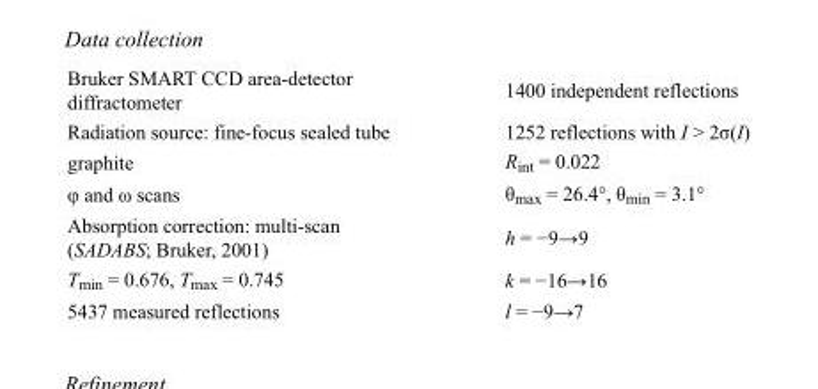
<table><tbody><tr><td>Bruker SMART CCD area-detector diffractometer</td><td>1400 independent reflections</td></tr><tr><td>Radiation source: fine-focus sealed tube</td><td>1252 reflections with I &gt; 2σ(I)</td></tr><tr><td>graphite</td><td>R<sub>int</sub> = 0.022</td></tr><tr><td>φ and ω scans</td><td>θ<sub>max</sub> = 26.4°, θ<sub>min</sub> = 3.1°</td></tr><tr><td>Absorption correction: multi-scan (SADABS; Bruker, 2001)</td><td>h = −9→9</td></tr><tr><td>T<sub>min</sub> = 0.676, T<sub>max</sub> = 0.745</td><td>k = −16→16</td></tr><tr><td>5437 measured reflections</td><td>l = −9→7</td></tr></tbody></table>